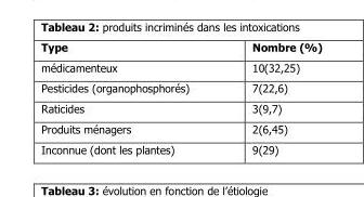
<table><thead><tr><td>Type</td><td>Nombre (%)</td></tr></thead><tbody><tr><td>médicamenteux</td><td>10(32,25)</td></tr><tr><td>Pesticides (organophosphorés)</td><td>7(22,6)</td></tr><tr><td>Raticides</td><td>3(9,7)</td></tr><tr><td>Produits ménagers</td><td>2(6,45)</td></tr><tr><td>Inconnue (dont les plantes)</td><td>9(29)</td></tr></tbody></table>